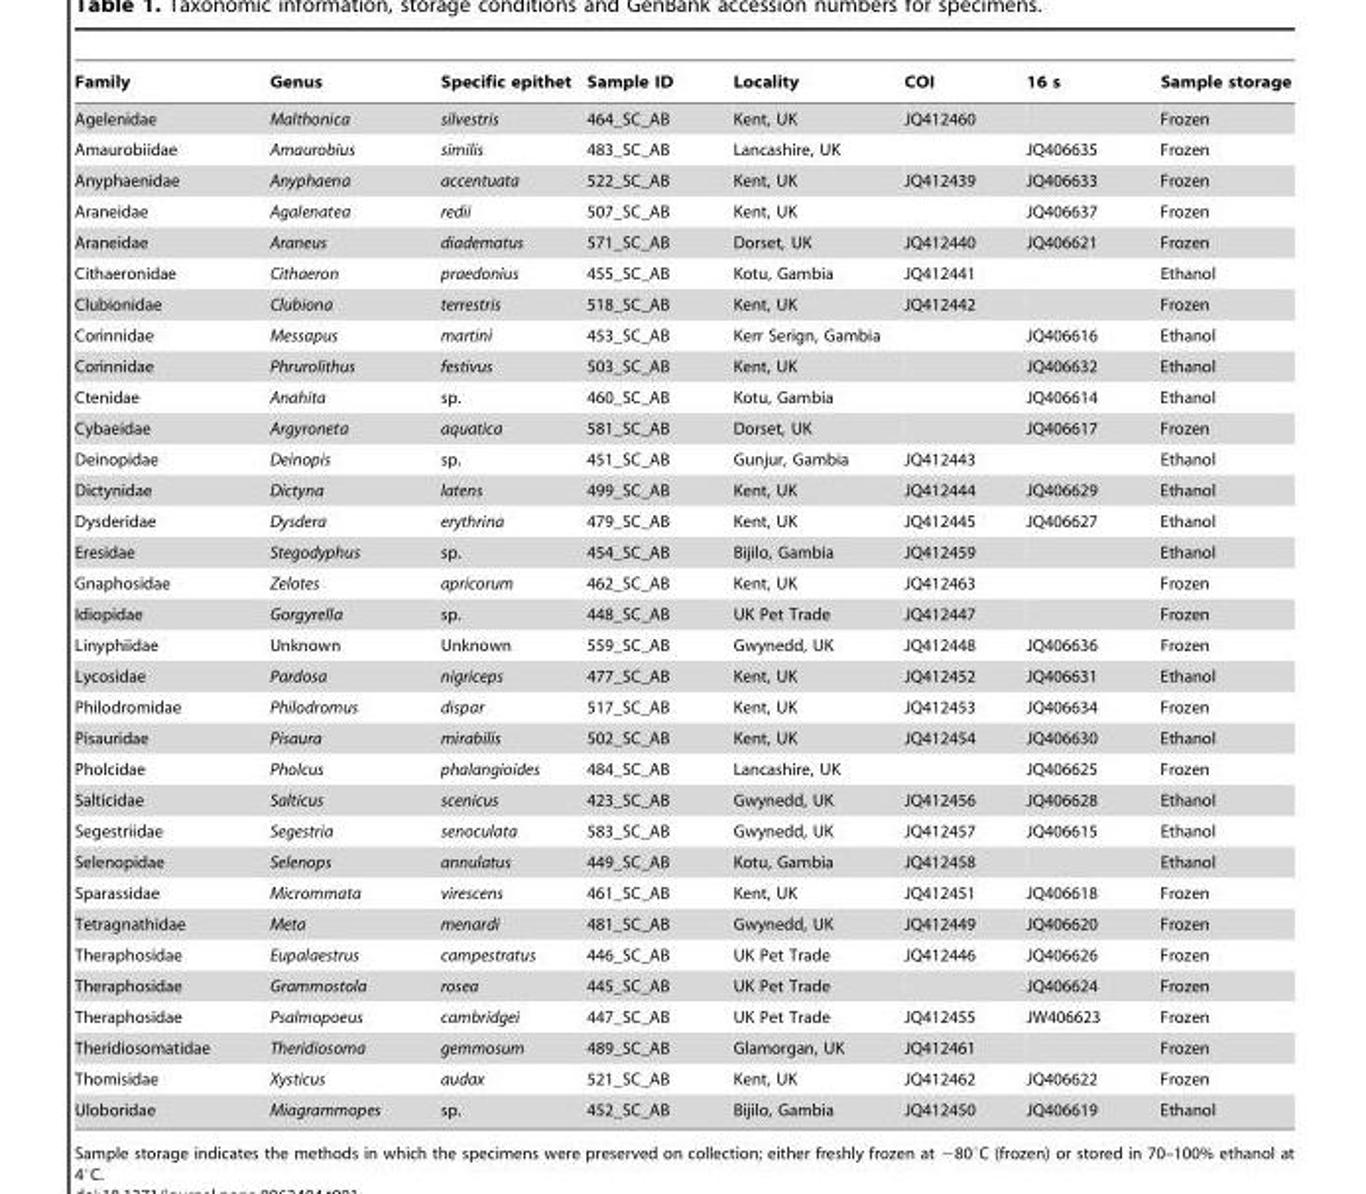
<table><thead><tr><td>Family</td><td>Genus</td><td>Specific epithet</td><td>Sample ID</td><td>Locality</td><td>COI</td><td>16 s</td><td>Sample storage</td></tr></thead><tbody><tr><td>Agelenidae</td><td>Malthonica</td><td>silvestris</td><td>464_SC_AB</td><td>Kent, UK</td><td>JQ412460</td><td></td><td>Frozen</td></tr><tr><td>Amaurobiidae</td><td>Amaurobius</td><td>similis</td><td>483_SC_AB</td><td>Lancashire, UK</td><td></td><td>JQ406635</td><td>Frozen</td></tr><tr><td>Anyphaenidae</td><td>Anyphaena</td><td>accentuata</td><td>522_SC_AB</td><td>Kent, UK</td><td>JQ412439</td><td>JQ406633</td><td>Frozen</td></tr><tr><td>Araneidae</td><td>Agalenatea</td><td>redii</td><td>507_SC_AB</td><td>Kent, UK</td><td></td><td>JQ406637</td><td>Frozen</td></tr><tr><td>Araneidae</td><td>Araneus</td><td>diadematus</td><td>571_SC_AB</td><td>Dorset, UK</td><td>JQ412440</td><td>JQ406621</td><td>Frozen</td></tr><tr><td>Cithaeronidae</td><td>Cithaeron</td><td>praedonius</td><td>455_SC_AB</td><td>Kotu, Gambia</td><td>JQ412441</td><td></td><td>Ethanol</td></tr><tr><td>Clubionidae</td><td>Clubiona</td><td>terrestris</td><td>518_SC_AB</td><td>Kent, UK</td><td>JQ412442</td><td></td><td>Frozen</td></tr><tr><td>Corinnidae</td><td>Messapus</td><td>martini</td><td>453_SC_AB</td><td>Kerr Serign, Gambia</td><td></td><td>JQ406616</td><td>Ethanol</td></tr><tr><td>Corinnidae</td><td>Phrurolithus</td><td>festivus</td><td>503_SC_AB</td><td>Kent, UK</td><td></td><td>JQ406632</td><td>Ethanol</td></tr><tr><td>Ctenidae</td><td>Anahita</td><td>sp.</td><td>460_SC_AB</td><td>Kotu, Gambia</td><td></td><td>JQ406614</td><td>Ethanol</td></tr><tr><td>Cybaeidae</td><td>Argyroneta</td><td>aquatica</td><td>581_SC_AB</td><td>Dorset, UK</td><td></td><td>JQ406617</td><td>Frozen</td></tr><tr><td>Deinopidae</td><td>Deinopis</td><td>sp.</td><td>451_SC_AB</td><td>Gunjur, Gambia</td><td>JQ412443</td><td></td><td>Ethanol</td></tr><tr><td>Dictynidae</td><td>Dictyna</td><td>latens</td><td>499_SC_AB</td><td>Kent, UK</td><td>JQ412444</td><td>JQ406629</td><td>Ethanol</td></tr><tr><td>Dysderidae</td><td>Dysdera</td><td>erythrina</td><td>479_SC_AB</td><td>Kent, UK</td><td>JQ412445</td><td>JQ406627</td><td>Ethanol</td></tr><tr><td>Eresidae</td><td>Stegodyphus</td><td>sp.</td><td>454_SC_AB</td><td>Bijilo, Gambia</td><td>JQ412459</td><td></td><td>Ethanol</td></tr><tr><td>Gnaphosidae</td><td>Zelotes</td><td>apricorum</td><td>462_SC_AB</td><td>Kent, UK</td><td>JQ412463</td><td></td><td>Frozen</td></tr><tr><td>Idiopidae</td><td>Gorgyrella</td><td>sp.</td><td>448_SC_AB</td><td>UK Pet Trade</td><td>JQ412447</td><td></td><td>Frozen</td></tr><tr><td>Linyphiidae</td><td>Unknown</td><td>Unknown</td><td>559_SC_AB</td><td>Gwynedd, UK</td><td>JQ412448</td><td>JQ406636</td><td>Frozen</td></tr><tr><td>Lycosidae</td><td>Pardosa</td><td>nigriceps</td><td>477_SC_AB</td><td>Kent, UK</td><td>JQ412452</td><td>JQ406631</td><td>Ethanol</td></tr><tr><td>Philodromidae</td><td>Philodromus</td><td>dispar</td><td>517_SC_AB</td><td>Kent, UK</td><td>JQ412453</td><td>JQ406634</td><td>Frozen</td></tr><tr><td>Pisauridae</td><td>Pisaura</td><td>mirabilis</td><td>502_SC_AB</td><td>Kent, UK</td><td>JQ412454</td><td>JQ406630</td><td>Ethanol</td></tr><tr><td>Pholcidae</td><td>Pholcus</td><td>phalangioides</td><td>484_SC_AB</td><td>Lancashire, UK</td><td></td><td>JQ406625</td><td>Frozen</td></tr><tr><td>Salticidae</td><td>Salticus</td><td>scenicus</td><td>423_SC_AB</td><td>Gwynedd, UK</td><td>JQ412456</td><td>JQ406628</td><td>Ethanol</td></tr><tr><td>Segestriidae</td><td>Segestria</td><td>senoculata</td><td>583_SC_AB</td><td>Gwynedd, UK</td><td>JQ412457</td><td>JQ406615</td><td>Ethanol</td></tr><tr><td>Selenopidae</td><td>Selenops</td><td>annulatus</td><td>449_SC_AB</td><td>Kotu, Gambia</td><td>JQ412458</td><td></td><td>Ethanol</td></tr><tr><td>Sparassidae</td><td>Micrommata</td><td>virescens</td><td>461_SC_AB</td><td>Kent, UK</td><td>JQ412451</td><td>JQ406618</td><td>Frozen</td></tr><tr><td>Tetragnathidae</td><td>Meta</td><td>menardi</td><td>481_SC_AB</td><td>Gwynedd, UK</td><td>JQ412449</td><td>JQ406620</td><td>Frozen</td></tr><tr><td>Theraphosidae</td><td>Eupalaestrus</td><td>campestratus</td><td>446_SC_AB</td><td>UK Pet Trade</td><td>JQ412446</td><td>JQ406626</td><td>Frozen</td></tr><tr><td>Theraphosidae</td><td>Grammostola</td><td>rosea</td><td>445_SC_AB</td><td>UK Pet Trade</td><td></td><td>JQ406624</td><td>Frozen</td></tr><tr><td>Theraphosidae</td><td>Psalmopoeus</td><td>cambridgei</td><td>447_SC_AB</td><td>UK Pet Trade</td><td>JQ412455</td><td>JW406623</td><td>Frozen</td></tr><tr><td>Theridiosomatidae</td><td>Theridiosoma</td><td>gemmosum</td><td>489_SC_AB</td><td>Glamorgan, UK</td><td>JQ412461</td><td></td><td>Frozen</td></tr><tr><td>Thomisidae</td><td>Xysticus</td><td>audax</td><td>521_SC_AB</td><td>Kent, UK</td><td>JQ412462</td><td>JQ406622</td><td>Frozen</td></tr><tr><td>Uloboridae</td><td>Miagrammopes</td><td>sp.</td><td>452_SC_AB</td><td>Bijilo, Gambia</td><td>JQ412450</td><td>JQ406619</td><td>Ethanol</td></tr></tbody></table>